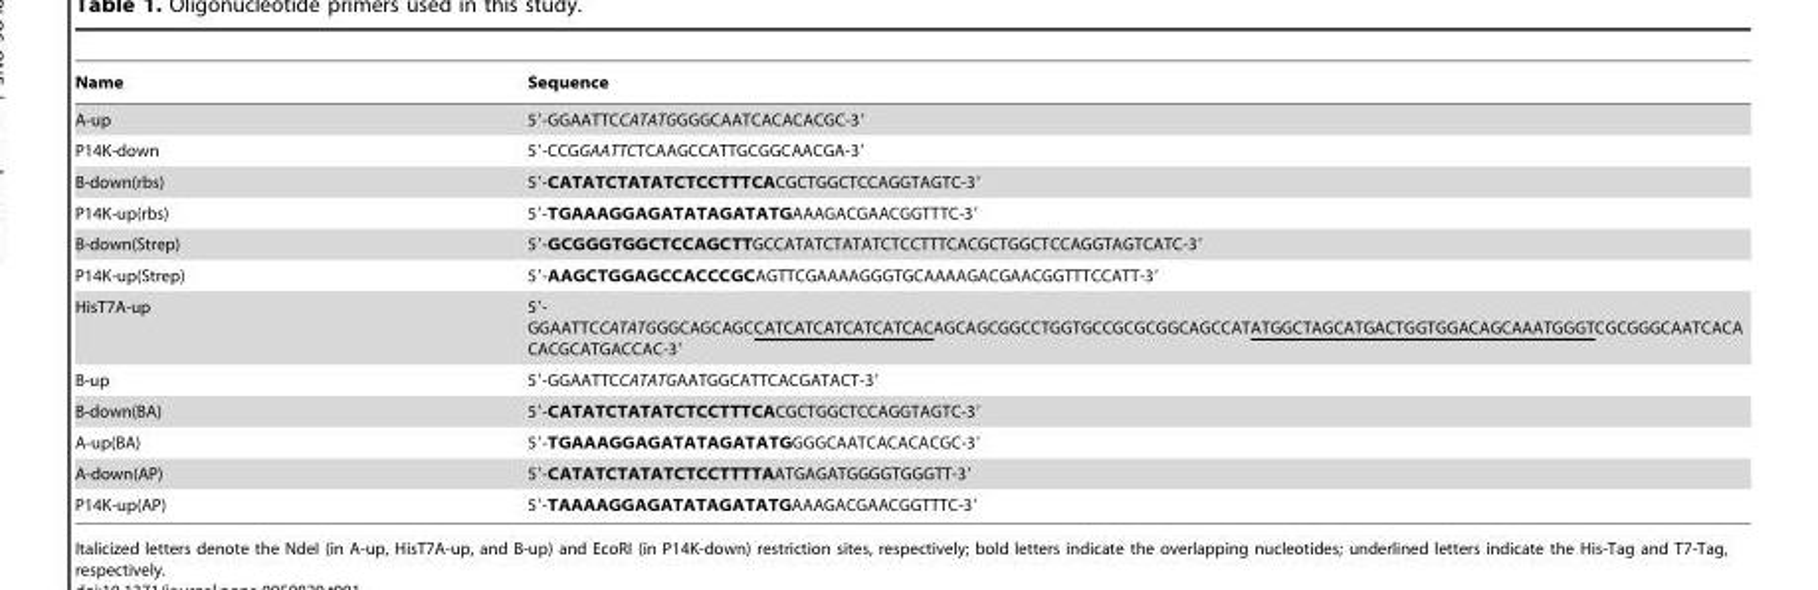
<table><thead><tr><td>Name</td><td>Sequence</td></tr></thead><tbody><tr><td>A-up</td><td>5′-GGAATTCCATATGGGGCAATCACACACGC-3′</td></tr><tr><td>P14K-down</td><td>5′-CCGGAATTCTCAAGCCATTGCGGCAACGA-3′</td></tr><tr><td>B-down(rbs)</td><td>5′-CATATCTATATCTCCTTTCACGCTGGCTCCAGGTAGTC-3′</td></tr><tr><td>P14K-up(rbs)</td><td>5′-TGAAAGGAGATATAGATATGAAAGACGAACGGTTTC-3′</td></tr><tr><td>B-down(Strep)</td><td>5′-GCGGGTGGCTCCAGCTTGCCATATCTATATCTCCTTTCACGCTGGCTCCAGGTAGTCATC-3′</td></tr><tr><td>P14K-up(Strep)</td><td>5′-AAGCTGGAGCCACCCGCAGTTCGAAAAGGGTGCAAAAGACGAACGGTTTCCATT-3′</td></tr><tr><td>HisT7A-up</td><td>5′- GGAATTCCATATGGGCAGCAGCCATCATCATCATCATCACAGCAGCGGCCTGGTGCCGCGCGGCAGCCATATGGCTAGCATGACTGGTGGACAGCAAATGGGTCGCGGGCAATCACA CACGCATGACCAC-3′</td></tr><tr><td>B-up</td><td>5′-GGAATTCCATATGAATGGCATTCACGATACT-3′</td></tr><tr><td>B-down(BA)</td><td>5′-CATATCTATATCTCCTTTCACGCTGGCTCCAGGTAGTC-3′</td></tr><tr><td>A-up(BA)</td><td>5′-TGAAAGGAGATATAGATATGGGGCAATCACACACGC-3′</td></tr><tr><td>A-down(AP)</td><td>5′-CATATCTATATCTCCTTTTAATGAGATGGGGTGGGTT-3′</td></tr><tr><td>P14K-up(AP)</td><td>5′-TAAAAGGAGATATAGATATGAAAGACGAACGGTTTC-3′</td></tr></tbody></table>